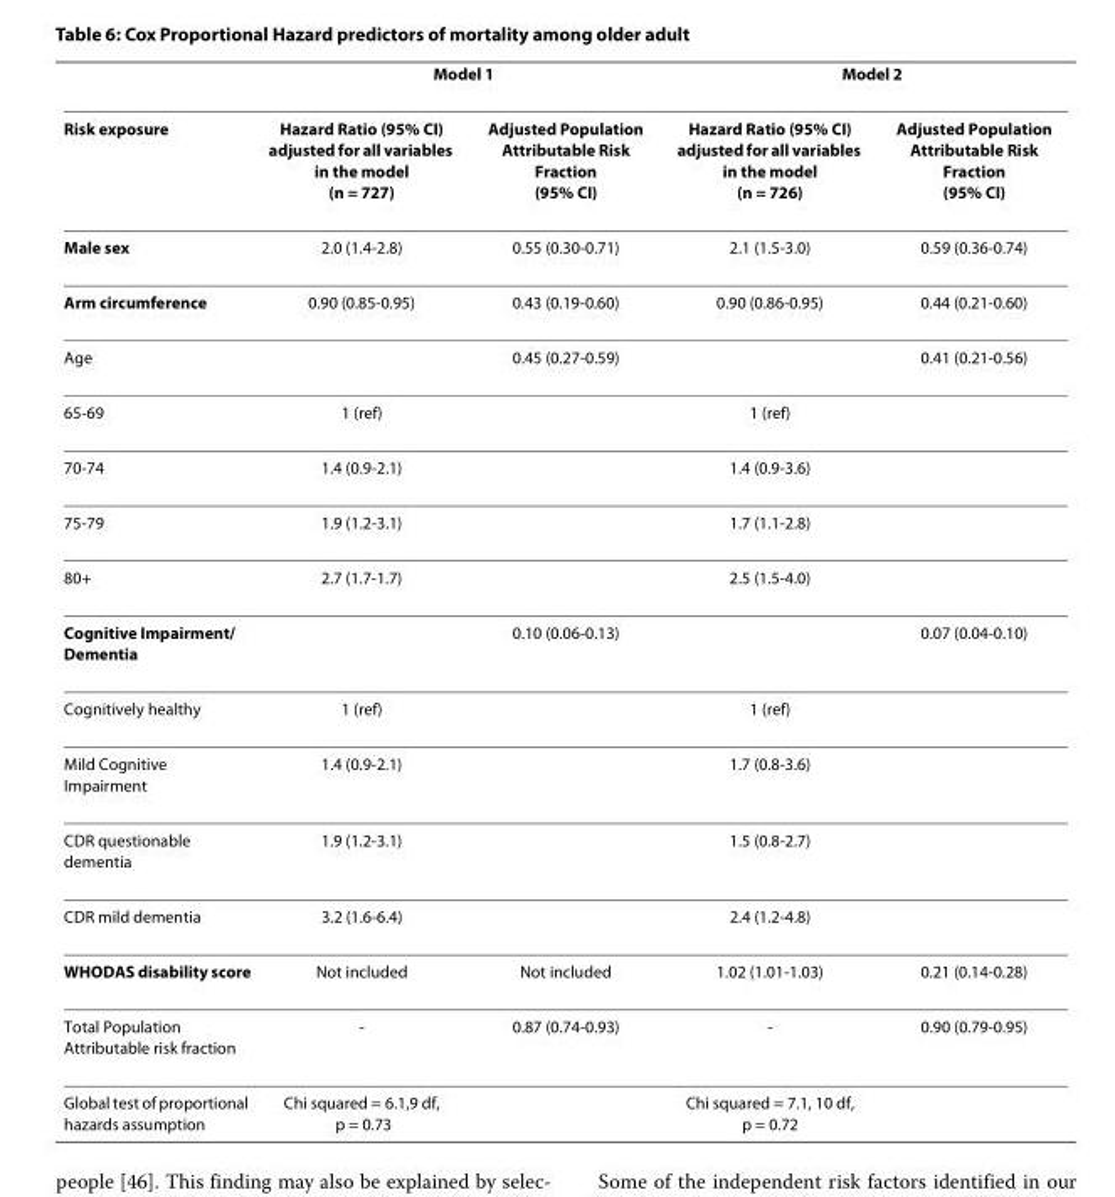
<table><thead><tr><td rowspan="2">Risk exposure</td><td colspan="2">Model 1</td><td colspan="2">Model 2</td></tr><tr><td>Hazard Ratio (95% CI) adjusted for all variables in the model (n = 727)</td><td>Adjusted Population Attributable Risk Fraction (95% CI)</td><td>Hazard Ratio (95% CI) adjusted for all variables in the model (n = 726)</td><td>Adjusted Population Attributable Risk Fraction (95% CI)</td></tr></thead><tbody><tr><td>Male sex</td><td>2.0 (1.4-2.8)</td><td>0.55 (0.30-0.71)</td><td>2.1 (1.5-3.0)</td><td>0.59 (0.36-0.74)</td></tr><tr><td>Arm circumference</td><td>0.90 (0.85-0.95)</td><td>0.43 (0.19-0.60)</td><td>0.90 (0.86-0.95)</td><td>0.44 (0.21-0.60)</td></tr><tr><td>Age</td><td></td><td>0.45 (0.27-0.59)</td><td></td><td>0.41 (0.21-0.56)</td></tr><tr><td>65-69</td><td>1 (ref)</td><td></td><td>1 (ref)</td><td></td></tr><tr><td>70-74</td><td>1.4 (0.9-2.1)</td><td></td><td>1.4 (0.9-3.6)</td><td></td></tr><tr><td>75-79</td><td>1.9 (1.2-3.1)</td><td></td><td>1.7 (1.1-2.8)</td><td></td></tr><tr><td>80+</td><td>2.7 (1.7-1.7)</td><td></td><td>2.5 (1.5-4.0)</td><td></td></tr><tr><td>Cognitive Impairment/ Dementia</td><td></td><td>0.10 (0.06-0.13)</td><td></td><td>0.07 (0.04-0.10)</td></tr><tr><td>Cognitively healthy</td><td>1 (ref)</td><td></td><td>1 (ref)</td><td></td></tr><tr><td>Mild Cognitive Impairment</td><td>1.4 (0.9-2.1)</td><td></td><td>1.7 (0.8-3.6)</td><td></td></tr><tr><td>CDR questionable dementia</td><td>1.9 (1.2-3.1)</td><td></td><td>1.5 (0.8-2.7)</td><td></td></tr><tr><td>CDR mild dementia</td><td>3.2 (1.6-6.4)</td><td></td><td>2.4 (1.2-4.8)</td><td></td></tr><tr><td>WHODAS disability score</td><td>Not included</td><td>Not included</td><td>1.02 (1.01-1.03)</td><td>0.21 (0.14-0.28)</td></tr><tr><td>Total Population Attributable risk fraction</td><td>-</td><td>0.87 (0.74-0.93)</td><td>-</td><td>0.90 (0.79-0.95)</td></tr><tr><td>Global test of proportional hazards assumption</td><td>Chi squared = 6.1,9 df, p = 0.73</td><td></td><td>Chi squared = 7.1, 10 df, p = 0.72</td><td></td></tr></tbody></table>